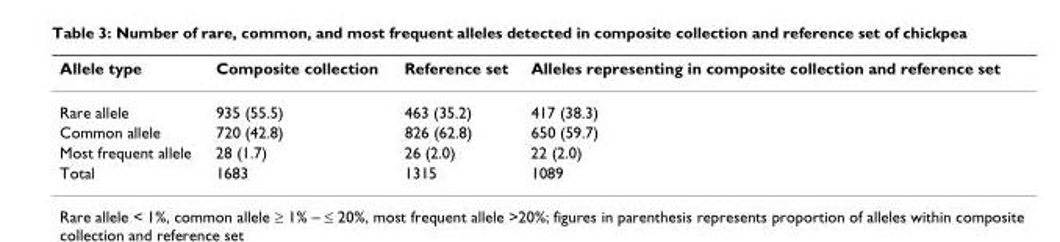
<table><thead><tr><td>Allele type</td><td>Composite collection</td><td>Reference set</td><td>Alleles representing in composite collection and reference set</td></tr></thead><tbody><tr><td>Rare allele</td><td>935 (55.5)</td><td>463 (35.2)</td><td>417 (38.3)</td></tr><tr><td>Common allele</td><td>720 (42.8)</td><td>826 (62.8)</td><td>650 (59.7)</td></tr><tr><td>Most frequent allele</td><td>28 (1.7)</td><td>26 (2.0)</td><td>22 (2.0)</td></tr><tr><td>Total</td><td>1683</td><td>1315</td><td>1089</td></tr></tbody></table>